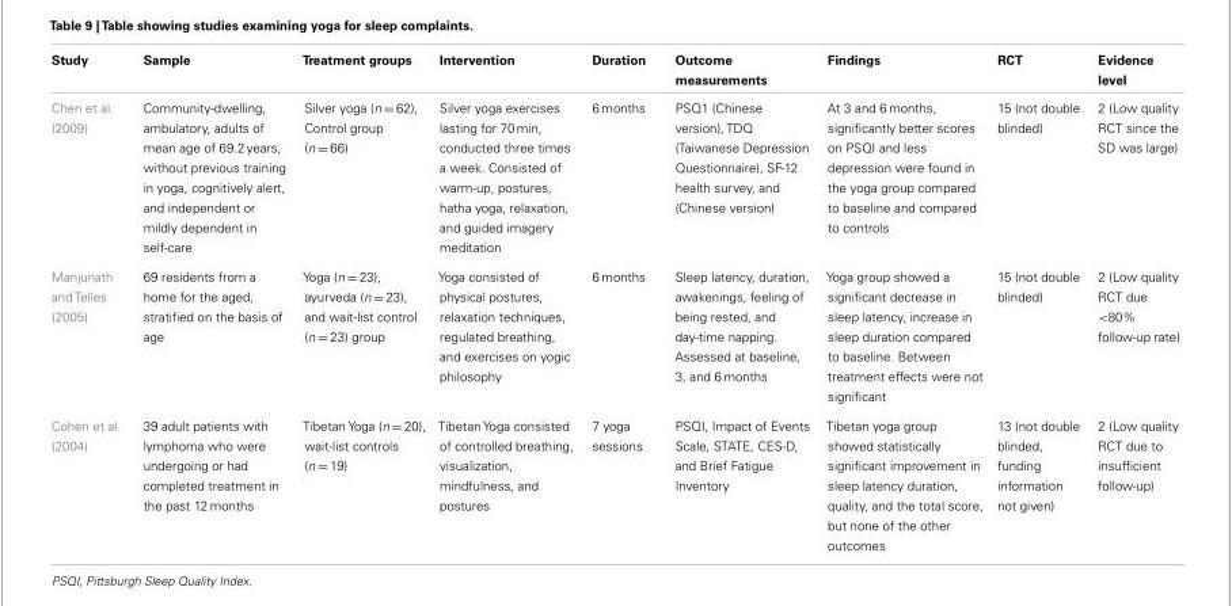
<table><thead><tr><td>Study</td><td>Sample</td><td>Treatment groups</td><td>Intervention</td><td>Duration</td><td>Outcome measurements</td><td>Findings</td><td>RCT</td><td>Evidence level</td></tr></thead><tbody><tr><td>Chen et al. (2009)</td><td>Community-dwelling, ambulatory, adults of mean age of 69.2 years, without previous training in yoga, cognitively alert, and independent or mildly dependent in self-care</td><td>Silver yoga (n = 62), Control group (n = 66)</td><td>Silver yoga exercises lasting for 70 min, conducted three times a week. Consisted of warm-up, postures, hatha yoga, relaxation, and guided imagery meditation</td><td>6 months</td><td>PSQ1 (Chinese version), TDQ (Taiwanese Depression Questionnaire), SF-12 health survey, and (Chinese version)</td><td>At 3 and 6 months, significantly better scores on PSQI and less depression were found in the yoga group compared to baseline and compared to controls</td><td>15 (not double blinded)</td><td>2 (Low quality RCT since the SD was large)</td></tr><tr><td>Manjunath and Telles (2005)</td><td>69 residents from a home for the aged, stratified on the basis of age</td><td>Yoga (n = 23), ayurveda (n = 23), and wait-list control (n = 23) group</td><td>Yoga consisted of physical postures, relaxation techniques, regulated breathing, and exercises on yogic philosophy</td><td>6 months</td><td>Sleep latency, duration, awakenings, feeling of being rested, and day-time napping. Assessed at baseline, 3, and 6 months</td><td>Yoga group showed a significant decrease in sleep latency, increase in sleep duration compared to baseline. Between treatment effects were not significant</td><td>15 (not double blinded)</td><td>2 (Low quality RCT due &lt;80% follow-up rate)</td></tr><tr><td>Cohen et al. (2004)</td><td>39 adult patients with lymphoma who were undergoing or had completed treatment in the past 12 months</td><td>Tibetan Yoga (n = 20), wait-list controls (n = 19)</td><td>Tibetan Yoga consisted of controlled breathing, visualization, mindfulness, and postures</td><td>7 yoga sessions</td><td>PSQI, Impact of Events Scale, STATE, CES-D, and Brief Fatigue Inventory</td><td>Tibetan yoga group showed statistically significant improvement in sleep latency duration, quality, and the total score, but none of the other outcomes</td><td>13 (not double blinded, funding information not given)</td><td>2 (Low quality RCT due to insufficient follow-up)</td></tr></tbody></table>